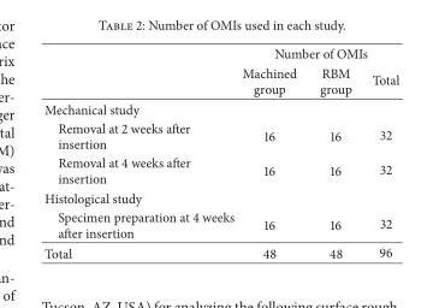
<table><thead><tr><td rowspan="2"></td><td colspan="3">Number of OMIs</td></tr><tr><td>Machined group</td><td>RBM group</td><td>Total</td></tr></thead><tbody><tr><td colspan="4">Mechanical study</td></tr><tr><td>Removal at 2 weeks after insertion</td><td>16</td><td>16</td><td>32</td></tr><tr><td>Removal at 4 weeks after insertion</td><td>16</td><td>16</td><td>32</td></tr><tr><td colspan="4">Histological study</td></tr><tr><td>Specimen preparation at 4 weeks after insertion</td><td>16</td><td>16</td><td>32</td></tr><tr><td>Total</td><td>48</td><td>48</td><td>96</td></tr></tbody></table>